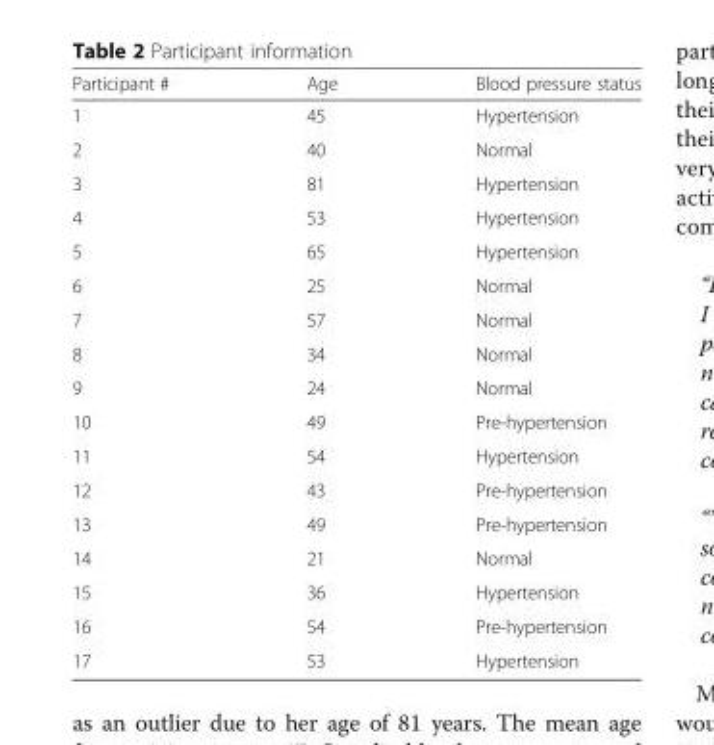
<table><thead><tr><td>Participant #</td><td>Age</td><td>Blood pressure status</td></tr></thead><tbody><tr><td>1</td><td>45</td><td>Hypertension</td></tr><tr><td>2</td><td>40</td><td>Normal</td></tr><tr><td>3</td><td>81</td><td>Hypertension</td></tr><tr><td>4</td><td>53</td><td>Hypertension</td></tr><tr><td>5</td><td>65</td><td>Hypertension</td></tr><tr><td>6</td><td>25</td><td>Normal</td></tr><tr><td>7</td><td>57</td><td>Normal</td></tr><tr><td>8</td><td>34</td><td>Normal</td></tr><tr><td>9</td><td>24</td><td>Normal</td></tr><tr><td>10</td><td>49</td><td>Pre-hypertension</td></tr><tr><td>11</td><td>54</td><td>Hypertension</td></tr><tr><td>12</td><td>43</td><td>Pre-hypertension</td></tr><tr><td>13</td><td>49</td><td>Pre-hypertension</td></tr><tr><td>14</td><td>21</td><td>Normal</td></tr><tr><td>15</td><td>36</td><td>Hypertension</td></tr><tr><td>16</td><td>54</td><td>Pre-hypertension</td></tr><tr><td>17</td><td>53</td><td>Hypertension</td></tr></tbody></table>